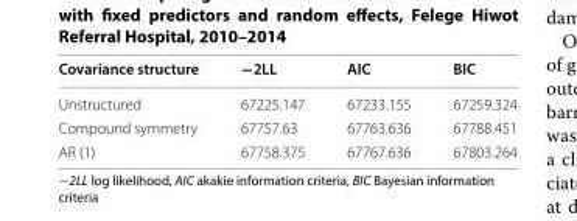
<table><thead><tr><td>Covariance structure</td><td>−2LL</td><td>AIC</td><td>BIC</td></tr></thead><tbody><tr><td>Unstructured</td><td>67225.147</td><td>67233.155</td><td>67259.324</td></tr><tr><td>Compound symmetry</td><td>67757.63</td><td>67763.636</td><td>67788.451</td></tr><tr><td>AR (1)</td><td>67758.375</td><td>67767.636</td><td>67803.264</td></tr></tbody></table>